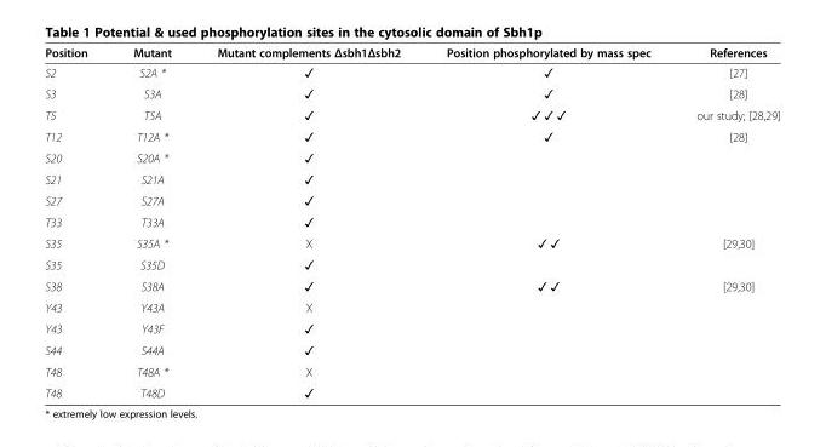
<table><thead><tr><td>Position</td><td>Mutant</td><td>Mutant complements Δsbh1Δsbh2</td><td>Position phosphorylated by mass spec</td><td>References</td></tr></thead><tbody><tr><td>S2</td><td>S2A *</td><td>✓</td><td>✓</td><td>[27]</td></tr><tr><td>S3</td><td>S3A</td><td>✓</td><td>✓</td><td>[28]</td></tr><tr><td>T5</td><td>T5A</td><td>✓</td><td>✓ ✓ ✓</td><td>our study; [28,29]</td></tr><tr><td>T12</td><td>T12A *</td><td>✓</td><td>✓</td><td>[28]</td></tr><tr><td>S20</td><td>S20A *</td><td>✓</td><td></td><td></td></tr><tr><td>S21</td><td>S21A</td><td>✓</td><td></td><td></td></tr><tr><td>S27</td><td>S27A</td><td>✓</td><td></td><td></td></tr><tr><td>T33</td><td>T33A</td><td>✓</td><td></td><td></td></tr><tr><td>S35</td><td>S35A *</td><td>X</td><td>✓ ✓</td><td>[29,30]</td></tr><tr><td>S35</td><td>S35D</td><td>✓</td><td></td><td></td></tr><tr><td>S38</td><td>S38A</td><td>✓</td><td>✓ ✓</td><td>[29,30]</td></tr><tr><td>Y43</td><td>Y43A</td><td>X</td><td></td><td></td></tr><tr><td>Y43</td><td>Y43F</td><td>✓</td><td></td><td></td></tr><tr><td>S44</td><td>S44A</td><td>✓</td><td></td><td></td></tr><tr><td>T48</td><td>T48A *</td><td>X</td><td></td><td></td></tr><tr><td>T48</td><td>T48D</td><td>✓</td><td></td><td></td></tr></tbody></table>